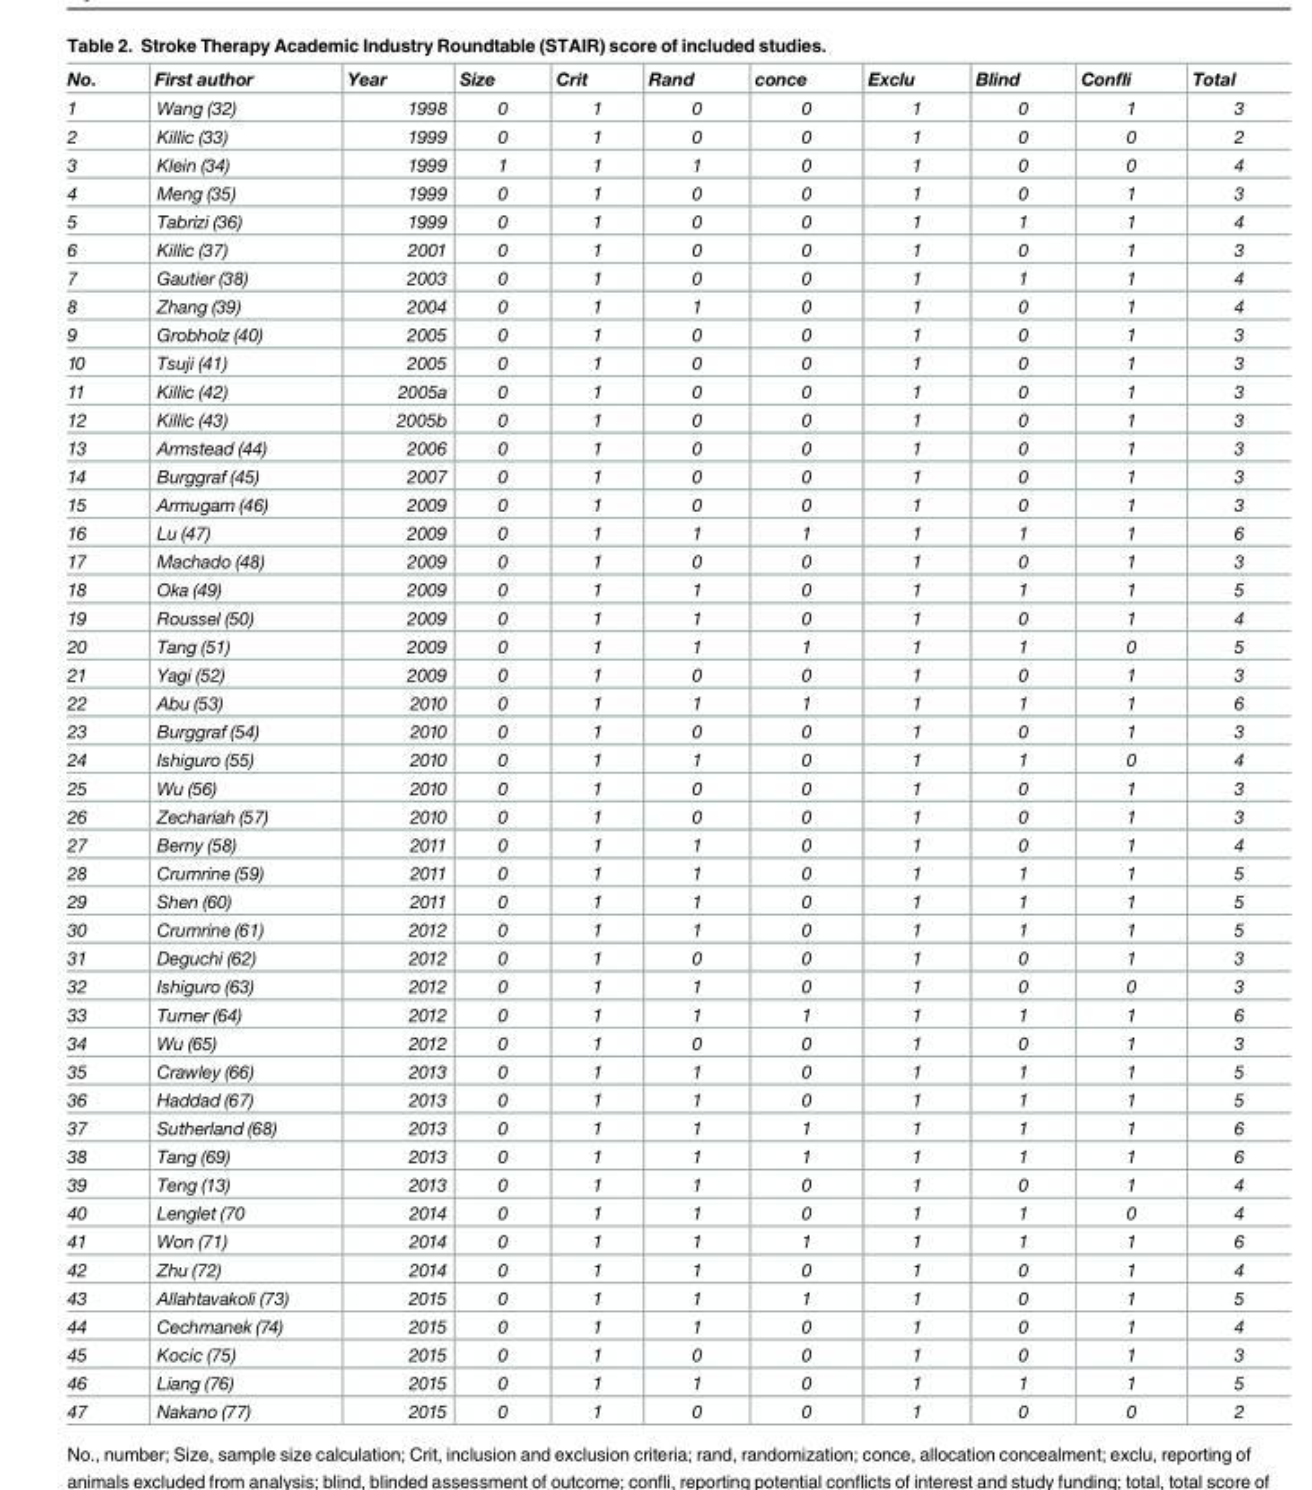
<table><thead><tr><td>No.</td><td>First author</td><td>Year</td><td>Size</td><td>Crit</td><td>Rand</td><td>conce</td><td>Exclu</td><td>Blind</td><td>Confli</td><td>Total</td></tr></thead><tbody><tr><td>1</td><td>Wang (32)</td><td>1998</td><td>0</td><td>1</td><td>0</td><td>0</td><td>1</td><td>0</td><td>1</td><td>3</td></tr><tr><td>2</td><td>Killic (33)</td><td>1999</td><td>0</td><td>1</td><td>0</td><td>0</td><td>1</td><td>0</td><td>0</td><td>2</td></tr><tr><td>3</td><td>Klein (34)</td><td>1999</td><td>1</td><td>1</td><td>1</td><td>0</td><td>1</td><td>0</td><td>0</td><td>4</td></tr><tr><td>4</td><td>Meng (35)</td><td>1999</td><td>0</td><td>1</td><td>0</td><td>0</td><td>1</td><td>0</td><td>1</td><td>3</td></tr><tr><td>5</td><td>Tabrizi (36)</td><td>1999</td><td>0</td><td>1</td><td>0</td><td>0</td><td>1</td><td>1</td><td>1</td><td>4</td></tr><tr><td>6</td><td>Killic (37)</td><td>2001</td><td>0</td><td>1</td><td>0</td><td>0</td><td>1</td><td>0</td><td>1</td><td>3</td></tr><tr><td>7</td><td>Gautier (38)</td><td>2003</td><td>0</td><td>1</td><td>0</td><td>0</td><td>1</td><td>1</td><td>1</td><td>4</td></tr><tr><td>8</td><td>Zhang (39)</td><td>2004</td><td>0</td><td>1</td><td>1</td><td>0</td><td>1</td><td>0</td><td>1</td><td>4</td></tr><tr><td>9</td><td>Grobholz (40)</td><td>2005</td><td>0</td><td>1</td><td>0</td><td>0</td><td>1</td><td>0</td><td>1</td><td>3</td></tr><tr><td>10</td><td>Tsuji (41)</td><td>2005</td><td>0</td><td>1</td><td>0</td><td>0</td><td>1</td><td>0</td><td>1</td><td>3</td></tr><tr><td>11</td><td>Killic (42)</td><td>2005a</td><td>0</td><td>1</td><td>0</td><td>0</td><td>1</td><td>0</td><td>1</td><td>3</td></tr><tr><td>12</td><td>Killic (43)</td><td>2005b</td><td>0</td><td>1</td><td>0</td><td>0</td><td>1</td><td>0</td><td>1</td><td>3</td></tr><tr><td>13</td><td>Armstead (44)</td><td>2006</td><td>0</td><td>1</td><td>0</td><td>0</td><td>1</td><td>0</td><td>1</td><td>3</td></tr><tr><td>14</td><td>Burggraf (45)</td><td>2007</td><td>0</td><td>1</td><td>0</td><td>0</td><td>1</td><td>0</td><td>1</td><td>3</td></tr><tr><td>15</td><td>Armugam (46)</td><td>2009</td><td>0</td><td>1</td><td>0</td><td>0</td><td>1</td><td>0</td><td>1</td><td>3</td></tr><tr><td>16</td><td>Lu (47)</td><td>2009</td><td>0</td><td>1</td><td>1</td><td>1</td><td>1</td><td>1</td><td>1</td><td>6</td></tr><tr><td>17</td><td>Machado (48)</td><td>2009</td><td>0</td><td>1</td><td>0</td><td>0</td><td>1</td><td>0</td><td>1</td><td>3</td></tr><tr><td>18</td><td>Oka (49)</td><td>2009</td><td>0</td><td>1</td><td>1</td><td>0</td><td>1</td><td>1</td><td>1</td><td>5</td></tr><tr><td>19</td><td>Roussel (50)</td><td>2009</td><td>0</td><td>1</td><td>1</td><td>0</td><td>1</td><td>0</td><td>1</td><td>4</td></tr><tr><td>20</td><td>Tang (51)</td><td>2009</td><td>0</td><td>1</td><td>1</td><td>1</td><td>1</td><td>1</td><td>0</td><td>5</td></tr><tr><td>21</td><td>Yagi (52)</td><td>2009</td><td>0</td><td>1</td><td>0</td><td>0</td><td>1</td><td>0</td><td>1</td><td>3</td></tr><tr><td>22</td><td>Abu (53)</td><td>2010</td><td>0</td><td>1</td><td>1</td><td>1</td><td>1</td><td>1</td><td>1</td><td>6</td></tr><tr><td>23</td><td>Burggraf (54)</td><td>2010</td><td>0</td><td>1</td><td>0</td><td>0</td><td>1</td><td>0</td><td>1</td><td>3</td></tr><tr><td>24</td><td>Ishiguro (55)</td><td>2010</td><td>0</td><td>1</td><td>1</td><td>0</td><td>1</td><td>1</td><td>0</td><td>4</td></tr><tr><td>25</td><td>Wu (56)</td><td>2010</td><td>0</td><td>1</td><td>0</td><td>0</td><td>1</td><td>0</td><td>1</td><td>3</td></tr><tr><td>26</td><td>Zechariah (57)</td><td>2010</td><td>0</td><td>1</td><td>0</td><td>0</td><td>1</td><td>0</td><td>1</td><td>3</td></tr><tr><td>27</td><td>Berny (58)</td><td>2011</td><td>0</td><td>1</td><td>1</td><td>0</td><td>1</td><td>0</td><td>1</td><td>4</td></tr><tr><td>28</td><td>Crumrine (59)</td><td>2011</td><td>0</td><td>1</td><td>1</td><td>0</td><td>1</td><td>1</td><td>1</td><td>5</td></tr><tr><td>29</td><td>Shen (60)</td><td>2011</td><td>0</td><td>1</td><td>1</td><td>0</td><td>1</td><td>1</td><td>1</td><td>5</td></tr><tr><td>30</td><td>Crumrine (61)</td><td>2012</td><td>0</td><td>1</td><td>1</td><td>0</td><td>1</td><td>1</td><td>1</td><td>5</td></tr><tr><td>31</td><td>Deguchi (62)</td><td>2012</td><td>0</td><td>1</td><td>0</td><td>0</td><td>1</td><td>0</td><td>1</td><td>3</td></tr><tr><td>32</td><td>Ishiguro (63)</td><td>2012</td><td>0</td><td>1</td><td>1</td><td>0</td><td>1</td><td>0</td><td>0</td><td>3</td></tr><tr><td>33</td><td>Turner (64)</td><td>2012</td><td>0</td><td>1</td><td>1</td><td>1</td><td>1</td><td>1</td><td>1</td><td>6</td></tr><tr><td>34</td><td>Wu (65)</td><td>2012</td><td>0</td><td>1</td><td>0</td><td>0</td><td>1</td><td>0</td><td>1</td><td>3</td></tr><tr><td>35</td><td>Crawley (66)</td><td>2013</td><td>0</td><td>1</td><td>1</td><td>0</td><td>1</td><td>1</td><td>1</td><td>5</td></tr><tr><td>36</td><td>Haddad (67)</td><td>2013</td><td>0</td><td>1</td><td>1</td><td>0</td><td>1</td><td>1</td><td>1</td><td>5</td></tr><tr><td>37</td><td>Sutherland (68)</td><td>2013</td><td>0</td><td>1</td><td>1</td><td>1</td><td>1</td><td>1</td><td>1</td><td>6</td></tr><tr><td>38</td><td>Tang (69)</td><td>2013</td><td>0</td><td>1</td><td>1</td><td>1</td><td>1</td><td>1</td><td>1</td><td>6</td></tr><tr><td>39</td><td>Teng (13)</td><td>2013</td><td>0</td><td>1</td><td>1</td><td>0</td><td>1</td><td>0</td><td>1</td><td>4</td></tr><tr><td>40</td><td>Lenglet (70</td><td>2014</td><td>0</td><td>1</td><td>1</td><td>0</td><td>1</td><td>1</td><td>0</td><td>4</td></tr><tr><td>41</td><td>Won (71)</td><td>2014</td><td>0</td><td>1</td><td>1</td><td>1</td><td>1</td><td>1</td><td>1</td><td>6</td></tr><tr><td>42</td><td>Zhu (72)</td><td>2014</td><td>0</td><td>1</td><td>1</td><td>0</td><td>1</td><td>0</td><td>1</td><td>4</td></tr><tr><td>43</td><td>Allahtavakoli (73)</td><td>2015</td><td>0</td><td>1</td><td>1</td><td>1</td><td>1</td><td>0</td><td>1</td><td>5</td></tr><tr><td>44</td><td>Cechmanek (74)</td><td>2015</td><td>0</td><td>1</td><td>1</td><td>0</td><td>1</td><td>0</td><td>1</td><td>4</td></tr><tr><td>45</td><td>Kocic (75)</td><td>2015</td><td>0</td><td>1</td><td>0</td><td>0</td><td>1</td><td>0</td><td>1</td><td>3</td></tr><tr><td>46</td><td>Liang (76)</td><td>2015</td><td>0</td><td>1</td><td>1</td><td>0</td><td>1</td><td>1</td><td>1</td><td>5</td></tr><tr><td>47</td><td>Nakano (77)</td><td>2015</td><td>0</td><td>1</td><td>0</td><td>0</td><td>1</td><td>0</td><td>0</td><td>2</td></tr></tbody></table>